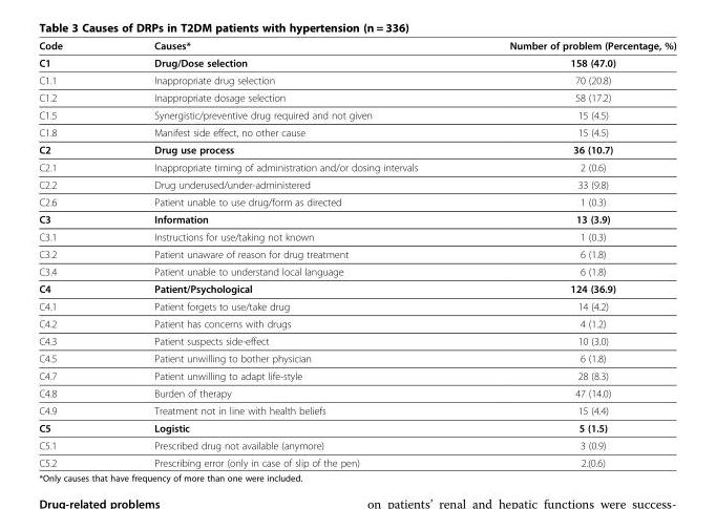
<table><thead><tr><td>Code</td><td>Causes*</td><td>Number of problem (Percentage, %)</td></tr></thead><tbody><tr><td>C1</td><td>Drug/Dose selection</td><td>158 (47.0)</td></tr><tr><td>C1.1</td><td>Inappropriate drug selection</td><td>70 (20.8)</td></tr><tr><td>C1.2</td><td>Inappropriate dosage selection</td><td>58 (17.2)</td></tr><tr><td>C1.5</td><td>Synergistic/preventive drug required and not given</td><td>15 (4.5)</td></tr><tr><td>C1.8</td><td>Manifest side effect, no other cause</td><td>15 (4.5)</td></tr><tr><td>C2</td><td>Drug use process</td><td>36 (10.7)</td></tr><tr><td>C2.1</td><td>Inappropriate timing of administration and/or dosing intervals</td><td>2 (0.6)</td></tr><tr><td>C2.2</td><td>Drug underused/under-administered</td><td>33 (9.8)</td></tr><tr><td>C2.6</td><td>Patient unable to use drug/form as directed</td><td>1 (0.3)</td></tr><tr><td>C3</td><td>Information</td><td>13 (3.9)</td></tr><tr><td>C3.1</td><td>Instructions for use/taking not known</td><td>1 (0.3)</td></tr><tr><td>C3.2</td><td>Patient unaware of reason for drug treatment</td><td>6 (1.8)</td></tr><tr><td>C3.4</td><td>Patient unable to understand local language</td><td>6 (1.8)</td></tr><tr><td>C4</td><td>Patient/Psychological</td><td>124 (36.9)</td></tr><tr><td>C4.1</td><td>Patient forgets to use/take drug</td><td>14 (4.2)</td></tr><tr><td>C4.2</td><td>Patient has concerns with drugs</td><td>4 (1.2)</td></tr><tr><td>C4.3</td><td>Patient suspects side-effect</td><td>10 (3.0)</td></tr><tr><td>C4.5</td><td>Patient unwilling to bother physician</td><td>6 (1.8)</td></tr><tr><td>C4.7</td><td>Patient unwilling to adapt life-style</td><td>28 (8.3)</td></tr><tr><td>C4.8</td><td>Burden of therapy</td><td>47 (14.0)</td></tr><tr><td>C4.9</td><td>Treatment not in line with health beliefs</td><td>15 (4.4)</td></tr><tr><td>C5</td><td>Logistic</td><td>5 (1.5)</td></tr><tr><td>C5.1</td><td>Prescribed drug not available (anymore)</td><td>3 (0.9)</td></tr><tr><td>C5.2</td><td>Prescribing error (only in case of slip of the pen)</td><td>2.(0.6)</td></tr></tbody></table>